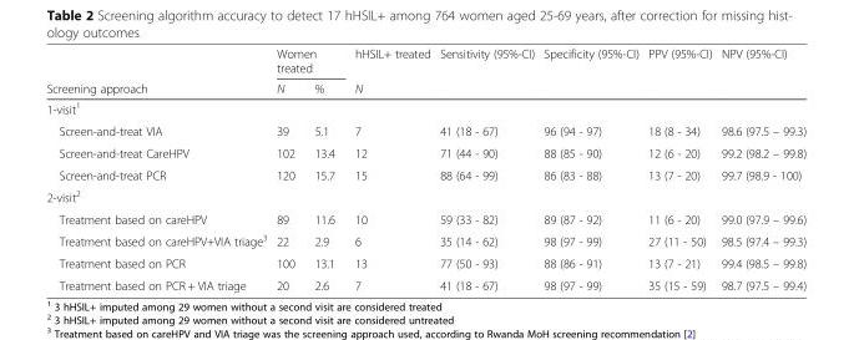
<table><thead><tr><td rowspan="2">Screening approach</td><td colspan="2">Women treated</td><td rowspan="2">hHSIL+ treated N</td><td rowspan="2">Sensitivity (95%-CI)</td><td rowspan="2">Specificity (95%-CI)</td><td rowspan="2">PPV (95%-CI)</td><td rowspan="2">NPV (95%-CI)</td></tr><tr><td>N</td><td>%</td></tr></thead><tbody><tr><td colspan="8">1-visit<sup>1</sup></td></tr><tr><td>Screen-and-treat VIA</td><td>39</td><td>5.1</td><td>7</td><td>41 (18 - 67)</td><td>96 (94 - 97)</td><td>18 (8 - 34)</td><td>98.6 (97.5 – 99.3)</td></tr><tr><td>Screen-and-treat CareHPV</td><td>102</td><td>13.4</td><td>12</td><td>71 (44 - 90)</td><td>88 (85 - 90)</td><td>12 (6 - 20)</td><td>99.2 (98.2 – 99.8)</td></tr><tr><td>Screen-and-treat PCR</td><td>120</td><td>15.7</td><td>15</td><td>88 (64 - 99)</td><td>86 (83 - 88)</td><td>13 (7 - 20)</td><td>99.7 (98.9 - 100)</td></tr><tr><td colspan="8">2-visit<sup>2</sup></td></tr><tr><td>Treatment based on careHPV</td><td>89</td><td>11.6</td><td>10</td><td>59 (33 - 82)</td><td>89 (87 - 92)</td><td>11 (6 - 20)</td><td>99.0 (97.9 – 99.6)</td></tr><tr><td>Treatment based on careHPV+VIA triage<sup>3</sup></td><td>22</td><td>2.9</td><td>6</td><td>35 (14 - 62)</td><td>98 (97 - 99)</td><td>27 (11 - 50)</td><td>98.5 (97.4 – 99.3)</td></tr><tr><td>Treatment based on PCR</td><td>100</td><td>13.1</td><td>13</td><td>77 (50 - 93)</td><td>88 (86 - 91)</td><td>13 (7 - 21)</td><td>99.4 (98.5 – 99.8)</td></tr><tr><td>Treatment based on PCR + VIA triage</td><td>20</td><td>2.6</td><td>7</td><td>41 (18 - 67)</td><td>98 (97 - 99)</td><td>35 (15 - 59)</td><td>98.7 (97.5 – 99.4)</td></tr></tbody></table>